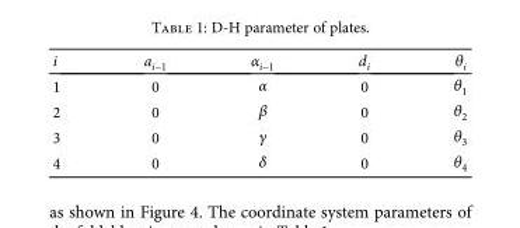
<table><thead><tr><td>i</td><td>a<sub>i−1</sub></td><td>α<sub>i−1</sub></td><td>d<sub>i</sub></td><td>θ<sub>i</sub></td></tr></thead><tbody><tr><td>1</td><td>0</td><td>α</td><td>0</td><td>θ<sub>1</sub></td></tr><tr><td>2</td><td>0</td><td>β</td><td>0</td><td>θ<sub>2</sub></td></tr><tr><td>3</td><td>0</td><td>γ</td><td>0</td><td>θ<sub>3</sub></td></tr><tr><td>4</td><td>0</td><td>δ</td><td>0</td><td>θ<sub>4</sub></td></tr></tbody></table>